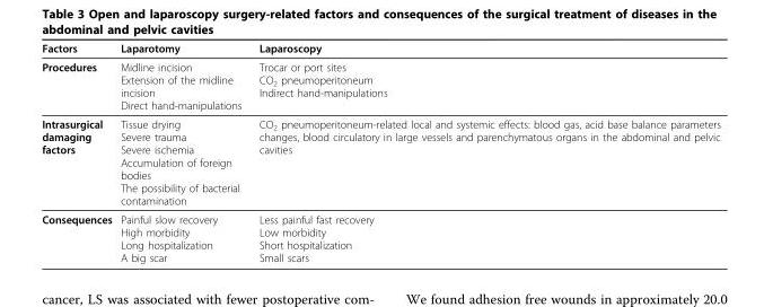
<table><thead><tr><td>Factors</td><td>Laparotomy</td><td>Laparoscopy</td></tr></thead><tbody><tr><td>Procedures</td><td>Midline incision Extension of the midline incision Direct hand-manipulations</td><td>Trocar or port sites CO<sub>2</sub> pneumoperitoneum Indirect hand-manipulations</td></tr><tr><td>Intrasurgical damaging factors</td><td>Tissue drying Severe trauma Severe ischemia Accumulation of foreign bodies The possibility of bacterial contamination</td><td>CO<sub>2</sub> pneumoperitoneum-related local and systemic effects: blood gas, acid base balance parameters changes, blood circulatory in large vessels and parenchymatous organs in the abdominal and pelvic cavities</td></tr><tr><td>Consequences</td><td>Painful slow recovery High morbidity Long hospitalization A big scar</td><td>Less painful fast recovery Low morbidity Short hospitalization Small scars</td></tr></tbody></table>